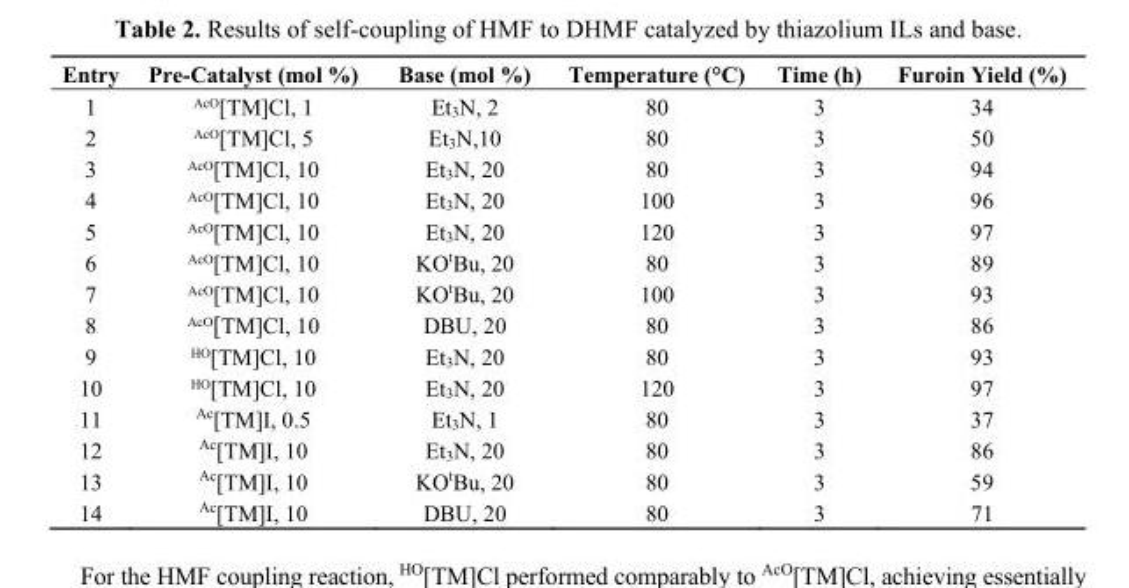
<table><thead><tr><td>Entry</td><td>Pre-Catalyst (mol %)</td><td>Base (mol %)</td><td>Temperature (°C)</td><td>Time (h)</td><td>Furoin Yield (%)</td></tr></thead><tbody><tr><td>1</td><td><sup>AcO</sup>[TM]Cl, 1</td><td>Et<sub>3</sub>N, 2</td><td>80</td><td>3</td><td>34</td></tr><tr><td>2</td><td><sup>AcO</sup>[TM]Cl, 5</td><td>Et<sub>3</sub>N,10</td><td>80</td><td>3</td><td>50</td></tr><tr><td>3</td><td><sup>AcO</sup>[TM]Cl, 10</td><td>Et<sub>3</sub>N, 20</td><td>80</td><td>3</td><td>94</td></tr><tr><td>4</td><td><sup>AcO</sup>[TM]Cl, 10</td><td>Et<sub>3</sub>N, 20</td><td>100</td><td>3</td><td>96</td></tr><tr><td>5</td><td><sup>AcO</sup>[TM]Cl, 10</td><td>Et<sub>3</sub>N, 20</td><td>120</td><td>3</td><td>97</td></tr><tr><td>6</td><td><sup>AcO</sup>[TM]Cl, 10</td><td>KO<sup>t</sup>Bu, 20</td><td>80</td><td>3</td><td>89</td></tr><tr><td>7</td><td><sup>AcO</sup>[TM]Cl, 10</td><td>KO<sup>t</sup>Bu, 20</td><td>100</td><td>3</td><td>93</td></tr><tr><td>8</td><td><sup>AcO</sup>[TM]Cl, 10</td><td>DBU, 20</td><td>80</td><td>3</td><td>86</td></tr><tr><td>9</td><td><sup>HO</sup>[TM]Cl, 10</td><td>Et<sub>3</sub>N, 20</td><td>80</td><td>3</td><td>93</td></tr><tr><td>10</td><td><sup>HO</sup>[TM]Cl, 10</td><td>Et<sub>3</sub>N, 20</td><td>120</td><td>3</td><td>97</td></tr><tr><td>11</td><td><sup>Ac</sup>[TM]I, 0.5</td><td>Et<sub>3</sub>N, 1</td><td>80</td><td>3</td><td>37</td></tr><tr><td>12</td><td><sup>Ac</sup>[TM]I, 10</td><td>Et<sub>3</sub>N, 20</td><td>80</td><td>3</td><td>86</td></tr><tr><td>13</td><td><sup>Ac</sup>[TM]I, 10</td><td>KO<sup>t</sup>Bu, 20</td><td>80</td><td>3</td><td>59</td></tr><tr><td>14</td><td><sup>Ac</sup>[TM]I, 10</td><td>DBU, 20</td><td>80</td><td>3</td><td>71</td></tr></tbody></table>